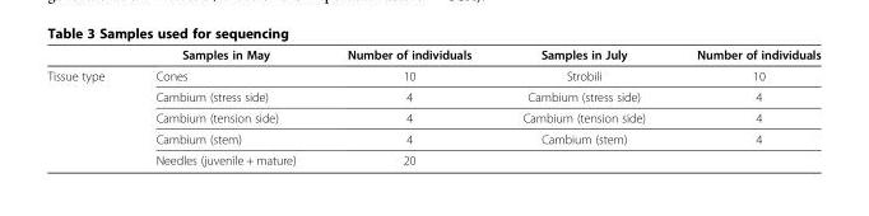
<table><thead><tr><td></td><td>Samples in May</td><td>Number of individuals</td><td>Samples in July</td><td>Number of individuals</td></tr></thead><tbody><tr><td rowspan="5">Tissue type</td><td>Cones</td><td>10</td><td>Strobili</td><td>10</td></tr><tr><td>Cambium (stress side)</td><td>4</td><td>Cambium (stress side)</td><td>4</td></tr><tr><td>Cambium (tension side)</td><td>4</td><td>Cambium (tension side)</td><td>4</td></tr><tr><td>Cambium (stem)</td><td>4</td><td>Cambium (stem)</td><td>4</td></tr><tr><td>Needles (juvenile + mature)</td><td>20</td><td></td><td></td></tr></tbody></table>